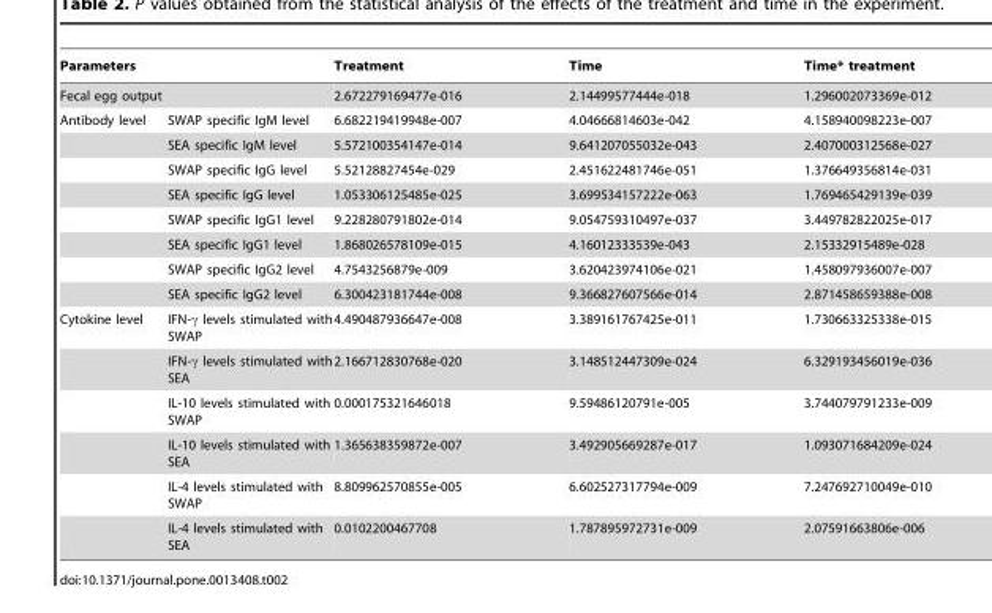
<table><thead><tr><td rowspan="2" colspan="2">Parameters Fecal egg output</td><td rowspan="3">Treatment 2.672279169477e-016 6.682219419948e-007</td><td rowspan="3">Time 2.14499577444e-018 4.04666814603e-042</td><td rowspan="3">Time* treatment 1.296002073369e-012 4.158940098223e-007</td></tr><tr></tr><tr><td>Antibody level</td><td>SWAP specific IgM level</td></tr></thead><tbody><tr><td></td><td>SEA specific IgM level</td><td>5.572100354147e-014</td><td>9.641207055032e-043</td><td>2.407000312568e-027</td></tr><tr><td></td><td>SWAP specific IgG level</td><td>5.52128827454e-029</td><td>2.451622481746e-051</td><td>1.376649356814e-031</td></tr><tr><td></td><td>SEA specific IgG level</td><td>1.053306125485e-025</td><td>3.699534157222e-063</td><td>1.769465429139e-039</td></tr><tr><td></td><td>SWAP specific IgG1 level</td><td>9.228280791802e-014</td><td>9.054759310497e-037</td><td>3.449782822025e-017</td></tr><tr><td></td><td>SEA specific IgG1 level</td><td>1.868026578109e-015</td><td>4.16012333539e-043</td><td>2.15332915489e-028</td></tr><tr><td></td><td>SWAP specific IgG2 level</td><td>4.7543256879e-009</td><td>3.620423974106e-021</td><td>1.458097936007e-007</td></tr><tr><td></td><td>SEA specific IgG2 level</td><td>6.300423181744e-008</td><td>9.366827607566e-014</td><td>2.871458659388e-008</td></tr><tr><td rowspan="6">Cytokine level</td><td>IFN-γ levels stimulated with SWAP</td><td>4.490487936647e-008</td><td>3.389161767425e-011</td><td>1.730663325338e-015</td></tr><tr><td>IFN-γ levels stimulated with SEA</td><td>2.166712830768e-020</td><td>3.148512447309e-024</td><td>6.329193456019e-036</td></tr><tr><td>IL-10 levels stimulated with SWAP</td><td>0.000175321646018</td><td>9.59486120791e-005</td><td>3.744079791233e-009</td></tr><tr><td>IL-10 levels stimulated with SEA</td><td>1.365638359872e-007</td><td>3.492905669287e-017</td><td>1.093071684209e-024</td></tr><tr><td>IL-4 levels stimulated with SWAP</td><td>8.809962570855e-005</td><td>6.602527317794e-009</td><td>7.247692710049e-010</td></tr><tr><td>IL-4 levels stimulated with SEA</td><td>0.0102200467708</td><td>1.787895972731e-009</td><td>2.07591663806e-006</td></tr></tbody></table>